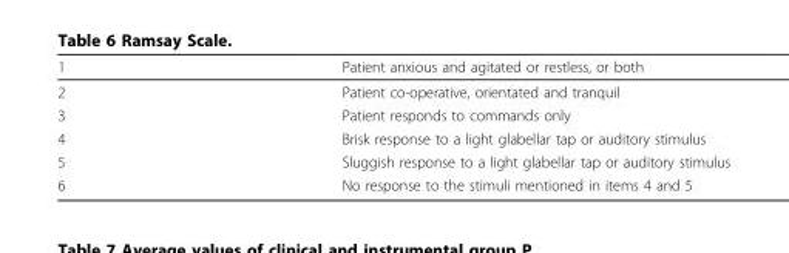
<table><thead><tr><td>1</td><td>Patient anxious and agitated or restless, or both</td></tr></thead><tbody><tr><td>2</td><td>Patient co-operative, orientated and tranquil</td></tr><tr><td>3</td><td>Patient responds to commands only</td></tr><tr><td>4</td><td>Brisk response to a light glabellar tap or auditory stimulus</td></tr><tr><td>5</td><td>Sluggish response to a light glabellar tap or auditory stimulus</td></tr><tr><td>6</td><td>No response to the stimuli mentioned in items 4 and 5</td></tr></tbody></table>